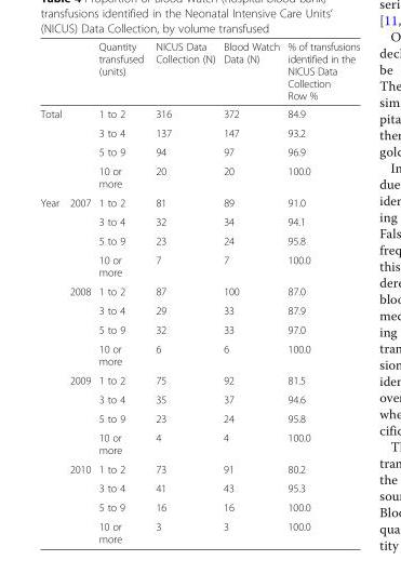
<table><thead><tr><td></td><td></td><td>Quantity transfused (units)</td><td>NICUS Data Collection (N)</td><td>Blood Watch Data (N)</td><td>% of transfusions identified in the NICUS Data Collection Row %</td></tr></thead><tbody><tr><td rowspan="4">Total</td><td></td><td>1 to 2</td><td>316</td><td>372</td><td>84.9</td></tr><tr><td></td><td>3 to 4</td><td>137</td><td>147</td><td>93.2</td></tr><tr><td></td><td>5 to 9</td><td>94</td><td>97</td><td>96.9</td></tr><tr><td></td><td>10 or more</td><td>20</td><td>20</td><td>100.0</td></tr><tr><td rowspan="16">Year</td><td>2007</td><td>1 to 2</td><td>81</td><td>89</td><td>91.0</td></tr><tr><td></td><td>3 to 4</td><td>32</td><td>34</td><td>94.1</td></tr><tr><td></td><td>5 to 9</td><td>23</td><td>24</td><td>95.8</td></tr><tr><td></td><td>10 or more</td><td>7</td><td>7</td><td>100.0</td></tr><tr><td>2008</td><td>1 to 2</td><td>87</td><td>100</td><td>87.0</td></tr><tr><td></td><td>3 to 4</td><td>29</td><td>33</td><td>87.9</td></tr><tr><td></td><td>5 to 9</td><td>32</td><td>33</td><td>97.0</td></tr><tr><td></td><td>10 or more</td><td>6</td><td>6</td><td>100.0</td></tr><tr><td>2009</td><td>1 to 2</td><td>75</td><td>92</td><td>81.5</td></tr><tr><td></td><td>3 to 4</td><td>35</td><td>37</td><td>94.6</td></tr><tr><td></td><td>5 to 9</td><td>23</td><td>24</td><td>95.8</td></tr><tr><td></td><td>10 or more</td><td>4</td><td>4</td><td>100.0</td></tr><tr><td>2010</td><td>1 to 2</td><td>73</td><td>91</td><td>80.2</td></tr><tr><td></td><td>3 to 4</td><td>41</td><td>43</td><td>95.3</td></tr><tr><td></td><td>5 to 9</td><td>16</td><td>16</td><td>100.0</td></tr><tr><td></td><td>10 or more</td><td>3</td><td>3</td><td>100.0</td></tr></tbody></table>